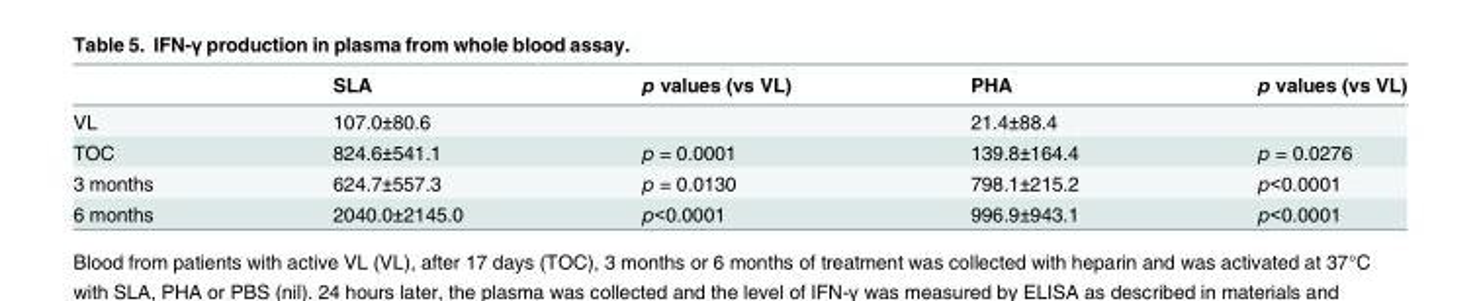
<table><thead><tr><td></td><td>SLA</td><td>p values (vs VL)</td><td>PHA</td><td>p values (vs VL)</td></tr></thead><tbody><tr><td>VL</td><td>107.0±80.6</td><td></td><td>21.4±88.4</td><td></td></tr><tr><td>TOC</td><td>824.6±541.1</td><td>p = 0.0001</td><td>139.8±164.4</td><td>p = 0.0276</td></tr><tr><td>3 months</td><td>624.7±557.3</td><td>p = 0.0130</td><td>798.1±215.2</td><td>p&lt;0.0001</td></tr><tr><td>6 months</td><td>2040.0±2145.0</td><td>p&lt;0.0001</td><td>996.9±943.1</td><td>p&lt;0.0001</td></tr></tbody></table>